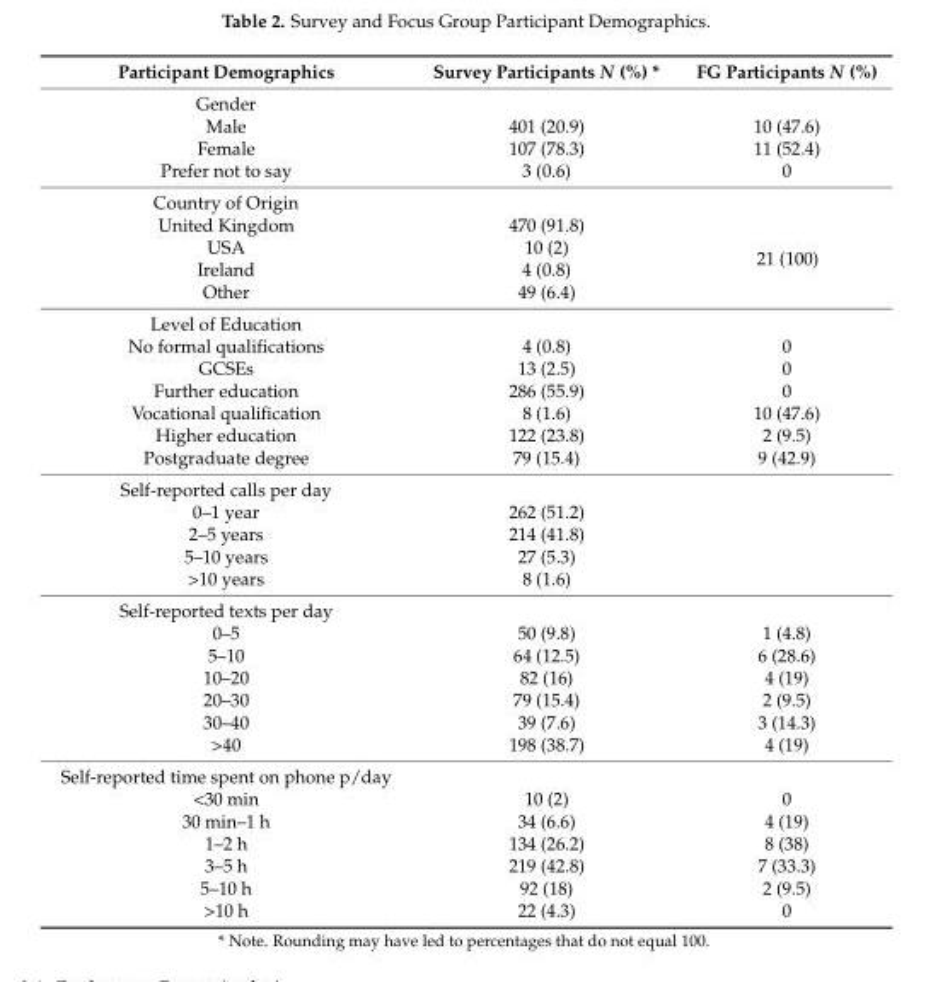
<table><thead><tr><td>Participant Demographics</td><td>Survey Participants N (%) *</td><td>FG Participants N (%)</td></tr></thead><tbody><tr><td colspan="3">Gender</td></tr><tr><td>Male</td><td>401 (20.9)</td><td>10 (47.6)</td></tr><tr><td>Female</td><td>107 (78.3)</td><td>11 (52.4)</td></tr><tr><td>Prefer not to say</td><td>3 (0.6)</td><td>0</td></tr><tr><td colspan="3">Country of Origin</td></tr><tr><td>United Kingdom</td><td>470 (91.8)</td><td rowspan="4">21 (100)</td></tr><tr><td>USA</td><td>10 (2)</td></tr><tr><td>Ireland</td><td>4 (0.8)</td></tr><tr><td>Other</td><td>49 (6.4)</td></tr><tr><td colspan="3">Level of Education</td></tr><tr><td>No formal qualifications</td><td>4 (0.8)</td><td>0</td></tr><tr><td>GCSEs</td><td>13 (2.5)</td><td>0</td></tr><tr><td>Further education</td><td>286 (55.9)</td><td>0</td></tr><tr><td>Vocational qualification</td><td>8 (1.6)</td><td>10 (47.6)</td></tr><tr><td>Higher education</td><td>122 (23.8)</td><td>2 (9.5)</td></tr><tr><td>Postgraduate degree</td><td>79 (15.4)</td><td>9 (42.9)</td></tr><tr><td colspan="2">Self-reported calls per day</td><td rowspan="5"></td></tr><tr><td>0–1 year</td><td>262 (51.2)</td></tr><tr><td>2–5 years</td><td>214 (41.8)</td></tr><tr><td>5–10 years</td><td>27 (5.3)</td></tr><tr><td>&gt;10 years</td><td>8 (1.6)</td></tr><tr><td colspan="3">Self-reported texts per day</td></tr><tr><td>0–5</td><td>50 (9.8)</td><td>1 (4.8)</td></tr><tr><td>5–10</td><td>64 (12.5)</td><td>6 (28.6)</td></tr><tr><td>10–20</td><td>82 (16)</td><td>4 (19)</td></tr><tr><td>20–30</td><td>79 (15.4)</td><td>2 (9.5)</td></tr><tr><td>30–40</td><td>39 (7.6)</td><td>3 (14.3)</td></tr><tr><td>&gt;40</td><td>198 (38.7)</td><td>4 (19)</td></tr><tr><td colspan="3">Self-reported time spent on phone p/day</td></tr><tr><td>&lt;30 min</td><td>10 (2)</td><td>0</td></tr><tr><td>30 min–1 h</td><td>34 (6.6)</td><td>4 (19)</td></tr><tr><td>1–2 h</td><td>134 (26.2)</td><td>8 (38)</td></tr><tr><td>3–5 h</td><td>219 (42.8)</td><td>7 (33.3)</td></tr><tr><td>5–10 h</td><td>92 (18)</td><td>2 (9.5)</td></tr><tr><td>&gt;10 h</td><td>22 (4.3)</td><td>0</td></tr></tbody></table>